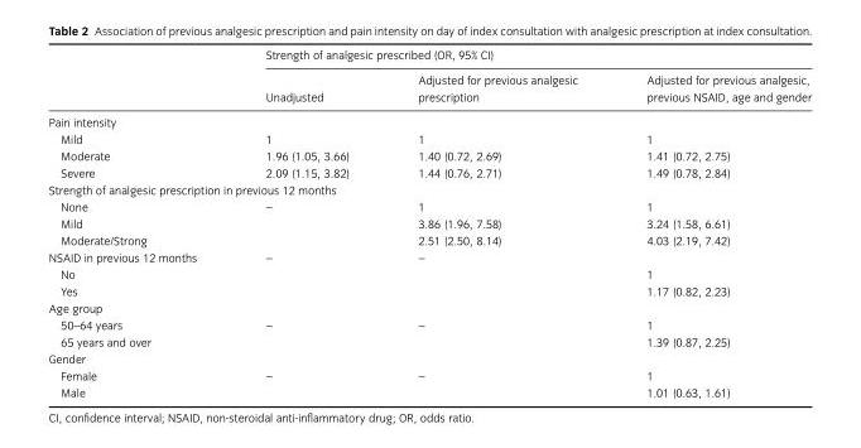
<table><thead><tr><td rowspan="2"></td><td colspan="3">Strength of analgesic prescribed (OR, 95% CI)</td></tr><tr><td>Unadjusted</td><td>Adjusted for previous analgesic prescription</td><td>Adjusted for previous analgesic, previous NSAID, age and gender</td></tr></thead><tbody><tr><td colspan="4">Pain intensity</td></tr><tr><td>Mild</td><td>1</td><td>1</td><td>1</td></tr><tr><td>Moderate</td><td>1.96 (1.05, 3.66)</td><td>1.40 (0.72, 2.69)</td><td>1.41 (0.72, 2.75)</td></tr><tr><td>Severe</td><td>2.09 (1.15, 3.82)</td><td>1.44 (0.76, 2.71)</td><td>1.49 (0.78, 2.84)</td></tr><tr><td colspan="4">Strength of analgesic prescription in previous 12 months</td></tr><tr><td>None</td><td>–</td><td>1</td><td>1</td></tr><tr><td>Mild</td><td></td><td>3.86 (1.96, 7.58)</td><td>3.24 (1.58, 6.61)</td></tr><tr><td>Moderate/Strong</td><td></td><td>2.51 (2.50, 8.14)</td><td>4.03 (2.19, 7.42)</td></tr><tr><td>NSAID in previous 12 months</td><td>–</td><td>–</td><td></td></tr><tr><td>No</td><td></td><td></td><td>1</td></tr><tr><td>Yes</td><td></td><td></td><td>1.17 (0.82, 2.23)</td></tr><tr><td colspan="4">Age group</td></tr><tr><td>50–64 years</td><td>–</td><td>–</td><td>1</td></tr><tr><td>65 years and over</td><td></td><td></td><td>1.39 (0.87, 2.25)</td></tr><tr><td colspan="4">Gender</td></tr><tr><td>Female</td><td>–</td><td>–</td><td>1</td></tr><tr><td>Male</td><td></td><td></td><td>1.01 (0.63, 1.61)</td></tr></tbody></table>